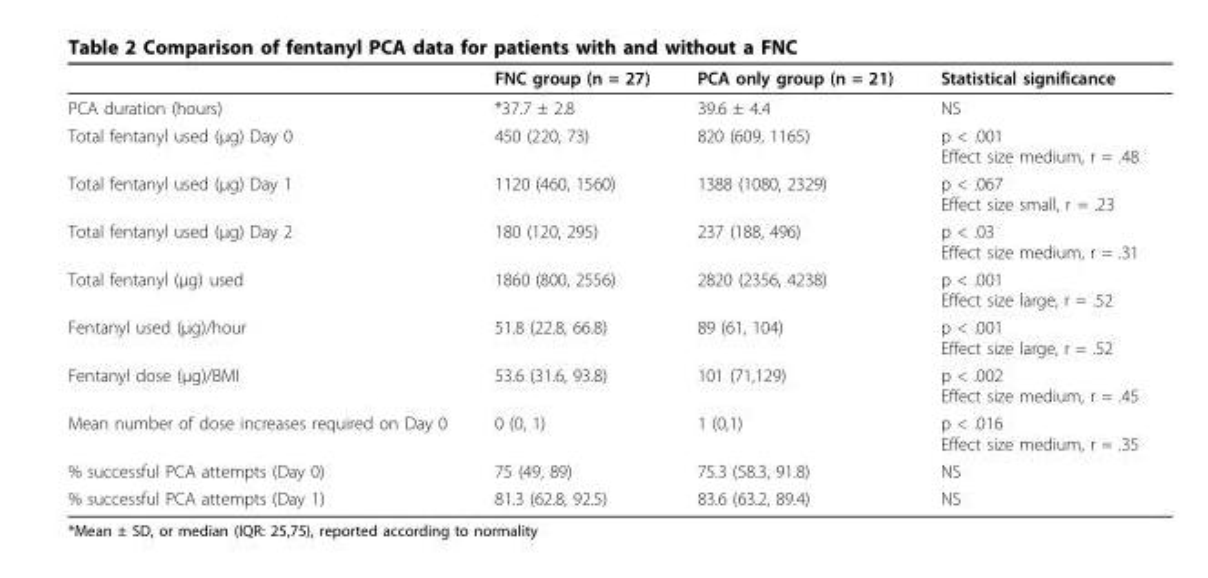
<table><thead><tr><td></td><td>FNC group (n = 27)</td><td>PCA only group (n = 21)</td><td>Statistical significance</td></tr></thead><tbody><tr><td>PCA duration (hours)</td><td>*37.7 ± 2.8</td><td>39.6 ± 4.4</td><td>NS</td></tr><tr><td>Total fentanyl used (μg) Day 0</td><td>450 (220, 73)</td><td>820 (609, 1165)</td><td>p &lt; .001 Effect size medium, r = .48</td></tr><tr><td>Total fentanyl used (μg) Day 1</td><td>1120 (460, 1560)</td><td>1388 (1080, 2329)</td><td>p &lt; .067 Effect size small, r = .23</td></tr><tr><td>Total fentanyl used (μg) Day 2</td><td>180 (120, 295)</td><td>237 (188, 496)</td><td>p &lt; .03 Effect size medium, r = .31</td></tr><tr><td>Total fentanyl (μg) used</td><td>1860 (800, 2556)</td><td>2820 (2356, 4238)</td><td>p &lt; .001 Effect size large, r = .52</td></tr><tr><td>Fentanyl used (μg)/hour</td><td>51.8 (22.8, 66.8)</td><td>89 (61, 104)</td><td>p &lt; .001 Effect size large, r = .52</td></tr><tr><td>Fentanyl dose (μg)/BMI</td><td>53.6 (31.6, 93.8)</td><td>101 (71,129)</td><td>p &lt; .002 Effect size medium, r = .45</td></tr><tr><td>Mean number of dose increases required on Day 0</td><td>0 (0, 1)</td><td>1 (0,1)</td><td>p &lt; .016 Effect size medium, r = .35</td></tr><tr><td>% successful PCA attempts (Day 0)</td><td>75 (49, 89)</td><td>75.3 (58.3, 91.8)</td><td>NS</td></tr><tr><td>% successful PCA attempts (Day 1)</td><td>81.3 (62.8, 92.5)</td><td>83.6 (63.2, 89.4)</td><td>NS</td></tr></tbody></table>